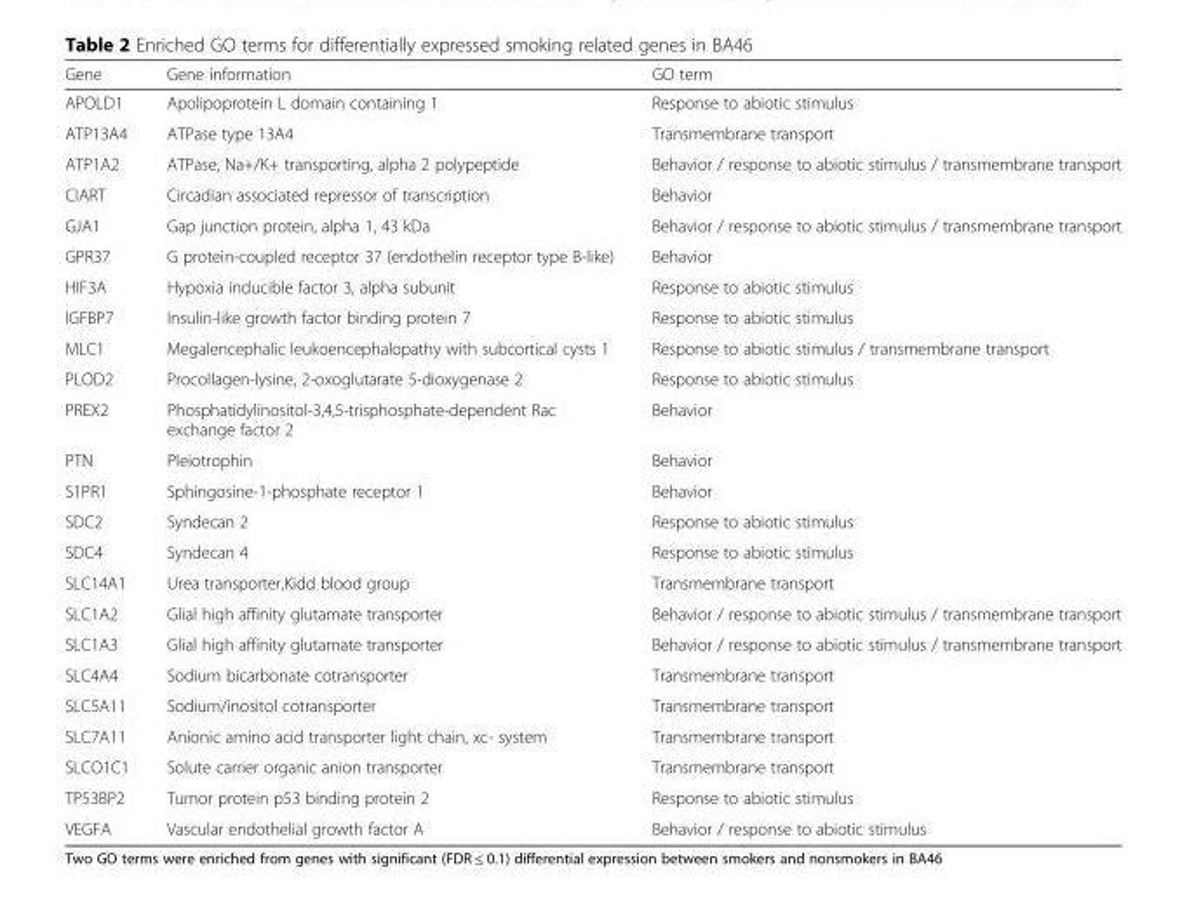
<table><thead><tr><td>Gene</td><td>Gene information</td><td>GO term</td></tr></thead><tbody><tr><td>APOLD1</td><td>Apolipoprotein L domain containing 1</td><td>Response to abiotic stimulus</td></tr><tr><td>ATP13A4</td><td>ATPase type 13A4</td><td>Transmembrane transport</td></tr><tr><td>ATP1A2</td><td>ATPase, Na+/K+ transporting, alpha 2 polypeptide</td><td>Behavior / response to abiotic stimulus / transmembrane transport</td></tr><tr><td>CIART</td><td>Circadian associated repressor of transcription</td><td>Behavior</td></tr><tr><td>GJA1</td><td>Gap junction protein, alpha 1, 43 kDa</td><td>Behavior / response to abiotic stimulus / transmembrane transport</td></tr><tr><td>GPR37</td><td>G protein-coupled receptor 37 (endothelin receptor type B-like)</td><td>Behavior</td></tr><tr><td>HIF3A</td><td>Hypoxia inducible factor 3, alpha subunit</td><td>Response to abiotic stimulus</td></tr><tr><td>IGFBP7</td><td>Insulin-like growth factor binding protein 7</td><td>Response to abiotic stimulus</td></tr><tr><td>MLC1</td><td>Megalencephalic leukoencephalopathy with subcortical cysts 1</td><td>Response to abiotic stimulus / transmembrane transport</td></tr><tr><td>PLOD2</td><td>Procollagen-lysine, 2-oxoglutarate 5-dioxygenase 2</td><td>Response to abiotic stimulus</td></tr><tr><td>PREX2</td><td>Phosphatidylinositol-3,4,5-trisphosphate-dependent Rac exchange factor 2</td><td>Behavior</td></tr><tr><td>PTN</td><td>Pleiotrophin</td><td>Behavior</td></tr><tr><td>S1PR1</td><td>Sphingosine-1-phosphate receptor 1</td><td>Behavior</td></tr><tr><td>SDC2</td><td>Syndecan 2</td><td>Response to abiotic stimulus</td></tr><tr><td>SDC4</td><td>Syndecan 4</td><td>Response to abiotic stimulus</td></tr><tr><td>SLC14A1</td><td>Urea transporter,Kidd blood group</td><td>Transmembrane transport</td></tr><tr><td>SLC1A2</td><td>Glial high affinity glutamate transporter</td><td>Behavior / response to abiotic stimulus / transmembrane transport</td></tr><tr><td>SLC1A3</td><td>Glial high affinity glutamate transporter</td><td>Behavior / response to abiotic stimulus / transmembrane transport</td></tr><tr><td>SLC4A4</td><td>Sodium bicarbonate cotransporter</td><td>Transmembrane transport</td></tr><tr><td>SLC5A11</td><td>Sodium/inositol cotransporter</td><td>Transmembrane transport</td></tr><tr><td>SLC7A11</td><td>Anionic amino acid transporter light chain, xc- system</td><td>Transmembrane transport</td></tr><tr><td>SLCO1C1</td><td>Solute carrier organic anion transporter</td><td>Transmembrane transport</td></tr><tr><td>TP53BP2</td><td>Tumor protein p53 binding protein 2</td><td>Response to abiotic stimulus</td></tr><tr><td>VEGFA</td><td>Vascular endothelial growth factor A</td><td>Behavior / response to abiotic stimulus</td></tr></tbody></table>